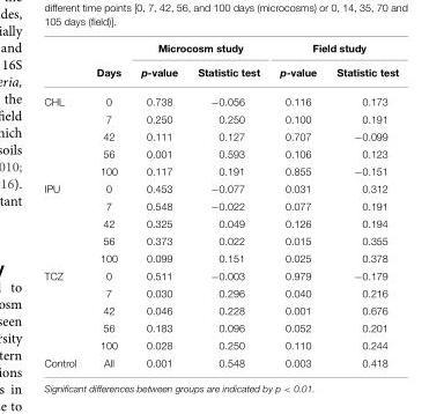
<table><thead><tr><td rowspan="2"></td><td rowspan="2">Days</td><td colspan="2">Microcosm study</td><td colspan="2">Field study</td></tr><tr><td>p-value</td><td>Statistic test</td><td>p-value</td><td>Statistic test</td></tr></thead><tbody><tr><td rowspan="5">CHL</td><td>0</td><td>0.738</td><td>−0.056</td><td>0.116</td><td>0.173</td></tr><tr><td>7</td><td>0.250</td><td>0.250</td><td>0.100</td><td>0.191</td></tr><tr><td>42</td><td>0.111</td><td>0.127</td><td>0.707</td><td>−0.099</td></tr><tr><td>56</td><td>0.001</td><td>0.593</td><td>0.106</td><td>0.123</td></tr><tr><td>100</td><td>0.117</td><td>0.191</td><td>0.855</td><td>−0.151</td></tr><tr><td rowspan="5">IPU</td><td>0</td><td>0.453</td><td>−0.077</td><td>0.031</td><td>0.312</td></tr><tr><td>7</td><td>0.548</td><td>−0.022</td><td>0.077</td><td>0.191</td></tr><tr><td>42</td><td>0.325</td><td>0.049</td><td>0.126</td><td>0.194</td></tr><tr><td>56</td><td>0.373</td><td>0.022</td><td>0.015</td><td>0.355</td></tr><tr><td>100</td><td>0.099</td><td>0.151</td><td>0.025</td><td>0.378</td></tr><tr><td rowspan="5">TCZ</td><td>0</td><td>0.511</td><td>−0.003</td><td>0.979</td><td>−0.179</td></tr><tr><td>7</td><td>0.030</td><td>0.296</td><td>0.040</td><td>0.216</td></tr><tr><td>42</td><td>0.046</td><td>0.228</td><td>0.001</td><td>0.676</td></tr><tr><td>56</td><td>0.183</td><td>0.096</td><td>0.052</td><td>0.201</td></tr><tr><td>100</td><td>0.028</td><td>0.250</td><td>0.110</td><td>0.244</td></tr><tr><td>Control</td><td>All</td><td>0.001</td><td>0.548</td><td>0.003</td><td>0.418</td></tr></tbody></table>